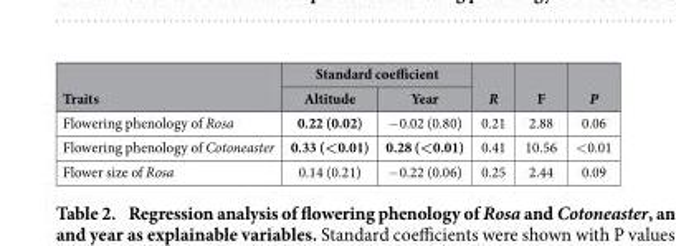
<table><thead><tr><td rowspan="2">Traits</td><td colspan="2">Standard coefficient</td><td rowspan="2">R</td><td rowspan="2">F</td><td rowspan="2">P</td></tr><tr><td>Altitude</td><td>Year</td></tr></thead><tbody><tr><td>Flowering phenology of Rosa</td><td>0.22 (0.02)</td><td>− 0.02 (0.80)</td><td>0.21</td><td>2.88</td><td>0.06</td></tr><tr><td>Flowering phenology of Cotoneaster</td><td>0.33 (&lt;0.01)</td><td>0.28 (&lt;0.01)</td><td>0.41</td><td>10.56</td><td>&lt; 0.01</td></tr><tr><td>Flower size of Rosa</td><td>0.14 (0.21)</td><td>− 0.22 (0.06)</td><td>0.25</td><td>2.44</td><td>0.09</td></tr></tbody></table>